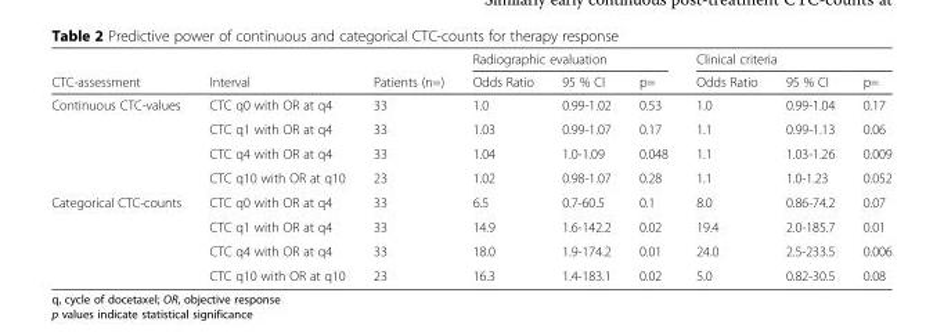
<table><thead><tr><td rowspan="2">CTC-assessment</td><td rowspan="2">Interval</td><td rowspan="2">Patients (n=)</td><td colspan="3">Radiographic evaluation</td><td colspan="3">Clinical criteria</td></tr><tr><td>Odds Ratio</td><td>95 % CI</td><td>p=</td><td>Odds Ratio</td><td>95 % CI</td><td>p=</td></tr></thead><tbody><tr><td rowspan="4">Continuous CTC-values</td><td>CTC q0 with OR at q4</td><td>33</td><td>1.0</td><td>0.99-1.02</td><td>0.53</td><td>1.0</td><td>0.99-1.04</td><td>0.17</td></tr><tr><td>CTC q1 with OR at q4</td><td>33</td><td>1.03</td><td>0.99-1.07</td><td>0.17</td><td>1.1</td><td>0.99-1.13</td><td>0.06</td></tr><tr><td>CTC q4 with OR at q4</td><td>33</td><td>1.04</td><td>1.0-1.09</td><td>0.048</td><td>1.1</td><td>1.03-1.26</td><td>0.009</td></tr><tr><td>CTC q10 with OR at q10</td><td>23</td><td>1.02</td><td>0.98-1.07</td><td>0.28</td><td>1.1</td><td>1.0-1.23</td><td>0.052</td></tr><tr><td rowspan="4">Categorical CTC-counts</td><td>CTC q0 with OR at q4</td><td>33</td><td>6.5</td><td>0.7-60.5</td><td>0.1</td><td>8.0</td><td>0.86-74.2</td><td>0.07</td></tr><tr><td>CTC q1 with OR at q4</td><td>33</td><td>14.9</td><td>1.6-142.2</td><td>0.02</td><td>19.4</td><td>2.0-185.7</td><td>0.01</td></tr><tr><td>CTC q4 with OR at q4</td><td>33</td><td>18.0</td><td>1.9-174.2</td><td>0.01</td><td>24.0</td><td>2.5-233.5</td><td>0.006</td></tr><tr><td>CTC q10 with OR at q10</td><td>23</td><td>16.3</td><td>1.4-183.1</td><td>0.02</td><td>5.0</td><td>0.82-30.5</td><td>0.08</td></tr></tbody></table>